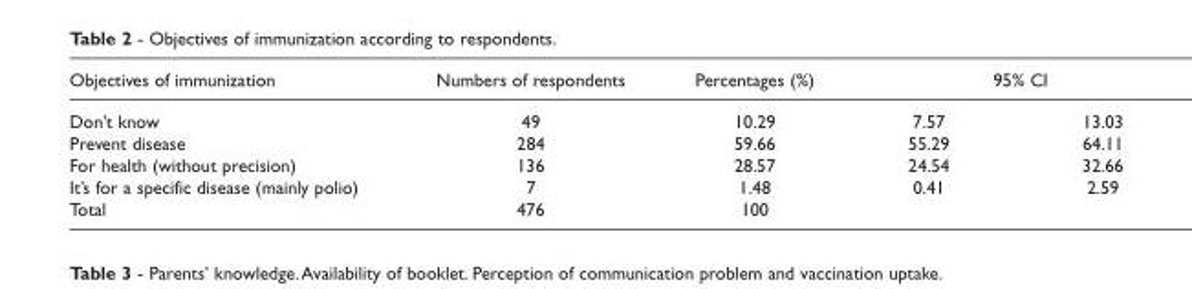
<table><thead><tr><td rowspan="2">Objectives of immunization Don’t know</td><td rowspan="2">Numbers of respondents 49</td><td rowspan="2">Percentages (%) 10.29</td><td colspan="2">95% CI</td></tr><tr><td>7.57</td><td>13.03</td></tr></thead><tbody><tr><td>Prevent disease</td><td>284</td><td>59.66</td><td>55.29</td><td>64.11</td></tr><tr><td>For health (without precision)</td><td>136</td><td>28.57</td><td>24.54</td><td>32.66</td></tr><tr><td>It’s for a specific disease (mainly polio)</td><td>7</td><td>1.48</td><td>0.41</td><td>2.59</td></tr><tr><td>Total</td><td>476</td><td>100</td><td></td><td></td></tr></tbody></table>